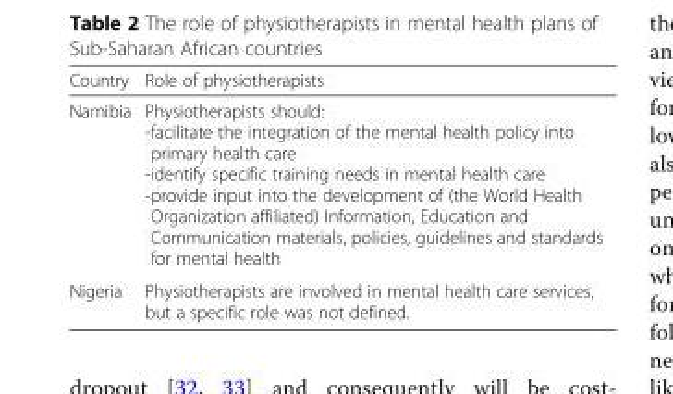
<table><thead><tr><td>Country</td><td>Role of physiotherapists</td></tr></thead><tbody><tr><td>Namibia</td><td>Physiotherapists should: -facilitate the integration of the mental health policy into primary health care -identify specific training needs in mental health care -provide input into the development of (the World Health Organization affiliated) Information, Education and Communication materials, policies, guidelines and standards for mental health</td></tr><tr><td>Nigeria</td><td>Physiotherapists are involved in mental health care services, but a specific role was not defined.</td></tr></tbody></table>